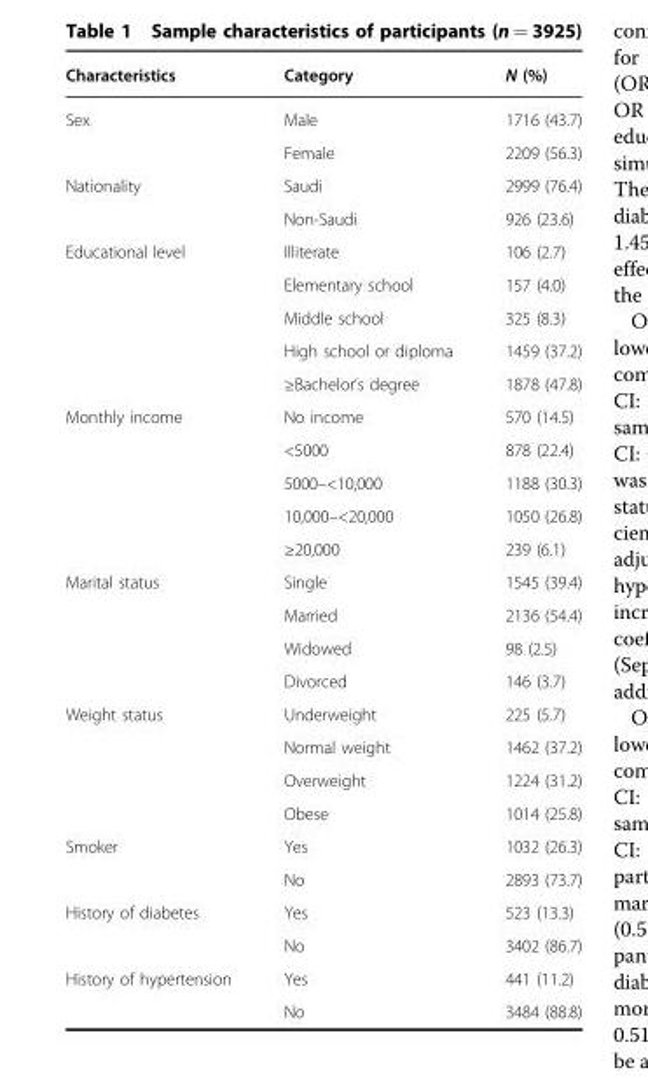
<table><thead><tr><td>Characteristics</td><td>Category</td><td>N (%)</td></tr></thead><tbody><tr><td rowspan="2">Sex</td><td>Male</td><td>1716 (43.7)</td></tr><tr><td>Female</td><td>2209 (56.3)</td></tr><tr><td rowspan="2">Nationality</td><td>Saudi</td><td>2999 (76.4)</td></tr><tr><td>Non-Saudi</td><td>926 (23.6)</td></tr><tr><td rowspan="5">Educational level</td><td>Illiterate</td><td>106 (2.7)</td></tr><tr><td>Elementary school</td><td>157 (4.0)</td></tr><tr><td>Middle school</td><td>325 (8.3)</td></tr><tr><td>High school or diploma</td><td>1459 (37.2)</td></tr><tr><td>≥Bachelor’s degree</td><td>1878 (47.8)</td></tr><tr><td rowspan="5">Monthly income</td><td>No income</td><td>570 (14.5)</td></tr><tr><td>&lt;5000</td><td>878 (22.4)</td></tr><tr><td>5000–&lt;10,000</td><td>1188 (30.3)</td></tr><tr><td>10,000–&lt;20,000</td><td>1050 (26.8)</td></tr><tr><td>≥20,000</td><td>239 (6.1)</td></tr><tr><td rowspan="4">Marital status</td><td>Single</td><td>1545 (39.4)</td></tr><tr><td>Married</td><td>2136 (54.4)</td></tr><tr><td>Widowed</td><td>98 (2.5)</td></tr><tr><td>Divorced</td><td>146 (3.7)</td></tr><tr><td rowspan="4">Weight status</td><td>Underweight</td><td>225 (5.7)</td></tr><tr><td>Normal weight</td><td>1462 (37.2)</td></tr><tr><td>Overweight</td><td>1224 (31.2)</td></tr><tr><td>Obese</td><td>1014 (25.8)</td></tr><tr><td rowspan="2">Smoker</td><td>Yes</td><td>1032 (26.3)</td></tr><tr><td>No</td><td>2893 (73.7)</td></tr><tr><td rowspan="2">History of diabetes</td><td>Yes</td><td>523 (13.3)</td></tr><tr><td>No</td><td>3402 (86.7)</td></tr><tr><td rowspan="2">History of hypertension</td><td>Yes</td><td>441 (11.2)</td></tr><tr><td>No</td><td>3484 (88.8)</td></tr></tbody></table>